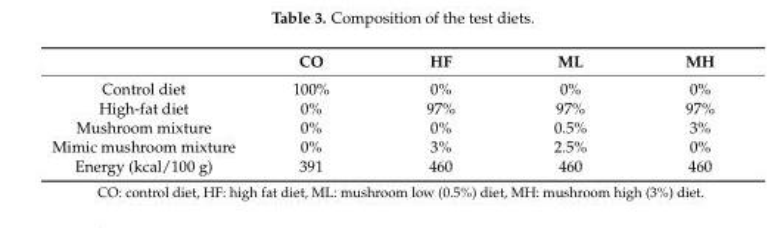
<table><thead><tr><td></td><td>CO</td><td>HF</td><td>ML</td><td>MH</td></tr></thead><tbody><tr><td>Control diet</td><td>100%</td><td>0%</td><td>0%</td><td>0%</td></tr><tr><td>High-fat diet</td><td>0%</td><td>97%</td><td>97%</td><td>97%</td></tr><tr><td>Mushroom mixture</td><td>0%</td><td>0%</td><td>0.5%</td><td>3%</td></tr><tr><td>Mimic mushroom mixture</td><td>0%</td><td>3%</td><td>2.5%</td><td>0%</td></tr><tr><td>Energy (kcal/100 g)</td><td>391</td><td>460</td><td>460</td><td>460</td></tr></tbody></table>